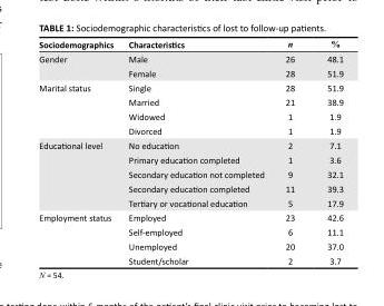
<table><thead><tr><td>Sociodemographics</td><td>Characteristics</td><td>n</td><td>%</td></tr></thead><tbody><tr><td rowspan="2">Gender</td><td>Male</td><td>26</td><td>48.1</td></tr><tr><td>Female</td><td>28</td><td>51.9</td></tr><tr><td rowspan="4">Marital status</td><td>Single</td><td>28</td><td>51.9</td></tr><tr><td>Married</td><td>21</td><td>38.9</td></tr><tr><td>Widowed</td><td>1</td><td>1.9</td></tr><tr><td>Divorced</td><td>1</td><td>1.9</td></tr><tr><td rowspan="5">Educational level</td><td>No education</td><td>2</td><td>7.1</td></tr><tr><td>Primary education completed</td><td>1</td><td>3.6</td></tr><tr><td>Secondary education not completed</td><td>9</td><td>32.1</td></tr><tr><td>Secondary education completed</td><td>11</td><td>39.3</td></tr><tr><td>Tertiary or vocational education</td><td>5</td><td>17.9</td></tr><tr><td rowspan="4">Employment status</td><td>Employed</td><td>23</td><td>42.6</td></tr><tr><td>Self-employed</td><td>6</td><td>11.1</td></tr><tr><td>Unemployed</td><td>20</td><td>37.0</td></tr><tr><td>Student/scholar</td><td>2</td><td>3.7</td></tr></tbody></table>